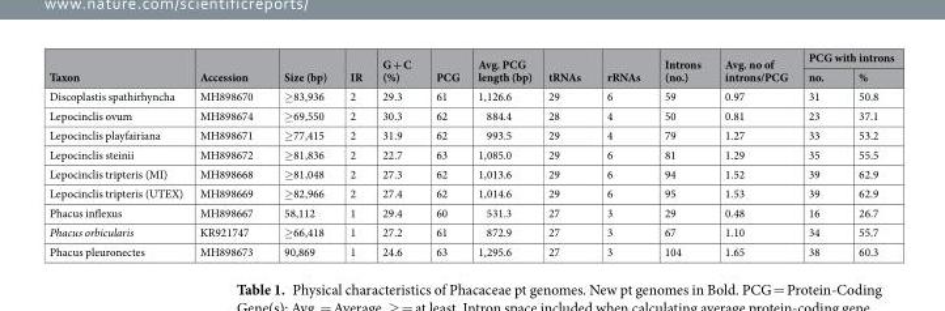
<table><thead><tr><td rowspan="2">Taxon</td><td rowspan="2">Accession</td><td rowspan="2">Size (bp)</td><td rowspan="2">IR</td><td rowspan="2">G + C (%)</td><td rowspan="2">PCG</td><td rowspan="2">Avg. PCG length (bp)</td><td rowspan="2">tRNAs</td><td rowspan="2">rRNAs</td><td rowspan="2">Introns (no.)</td><td rowspan="2">Avg. no of introns/PCG</td><td colspan="2">PCG with introns</td></tr><tr><td>no.</td><td>%</td></tr></thead><tbody><tr><td>Discoplastis spathirhyncha</td><td>MH898670</td><td>≥83,936</td><td>2</td><td>29.3</td><td>61</td><td>1,126.6</td><td>29</td><td>6</td><td>59</td><td>0.97</td><td>31</td><td>50.8</td></tr><tr><td>Lepocinclis ovum</td><td>MH898674</td><td>≥69,550</td><td>2</td><td>30.3</td><td>62</td><td>884.4</td><td>28</td><td>4</td><td>50</td><td>0.81</td><td>23</td><td>37.1</td></tr><tr><td>Lepocinclis playfairiana</td><td>MH898671</td><td>≥77,415</td><td>2</td><td>31.9</td><td>62</td><td>993.5</td><td>29</td><td>4</td><td>79</td><td>1.27</td><td>33</td><td>53.2</td></tr><tr><td>Lepocinclis steinii</td><td>MH898672</td><td>≥81,836</td><td>2</td><td>22.7</td><td>63</td><td>1,085.0</td><td>29</td><td>6</td><td>81</td><td>1.29</td><td>35</td><td>55.5</td></tr><tr><td>Lepocinclis tripteris (MI)</td><td>MH898668</td><td>≥81,048</td><td>2</td><td>27.3</td><td>62</td><td>1,013.6</td><td>29</td><td>6</td><td>94</td><td>1.52</td><td>39</td><td>62.9</td></tr><tr><td>Lepocinclis tripteris (UTEX)</td><td>MH898669</td><td>≥82,966</td><td>2</td><td>27.4</td><td>62</td><td>1,014.6</td><td>29</td><td>6</td><td>95</td><td>1.53</td><td>39</td><td>62.9</td></tr><tr><td>Phacus inflexus</td><td>MH898667</td><td>58,112</td><td>1</td><td>29.4</td><td>60</td><td>531.3</td><td>27</td><td>3</td><td>29</td><td>0.48</td><td>16</td><td>26.7</td></tr><tr><td>Phacus orbicularis</td><td>KR921747</td><td>≥66,418</td><td>1</td><td>27.2</td><td>61</td><td>872.9</td><td>27</td><td>3</td><td>67</td><td>1.10</td><td>34</td><td>55.7</td></tr><tr><td>Phacus pleuronectes</td><td>MH898673</td><td>90,869</td><td>1</td><td>24.6</td><td>63</td><td>1,295.6</td><td>27</td><td>3</td><td>104</td><td>1.65</td><td>38</td><td>60.3</td></tr></tbody></table>